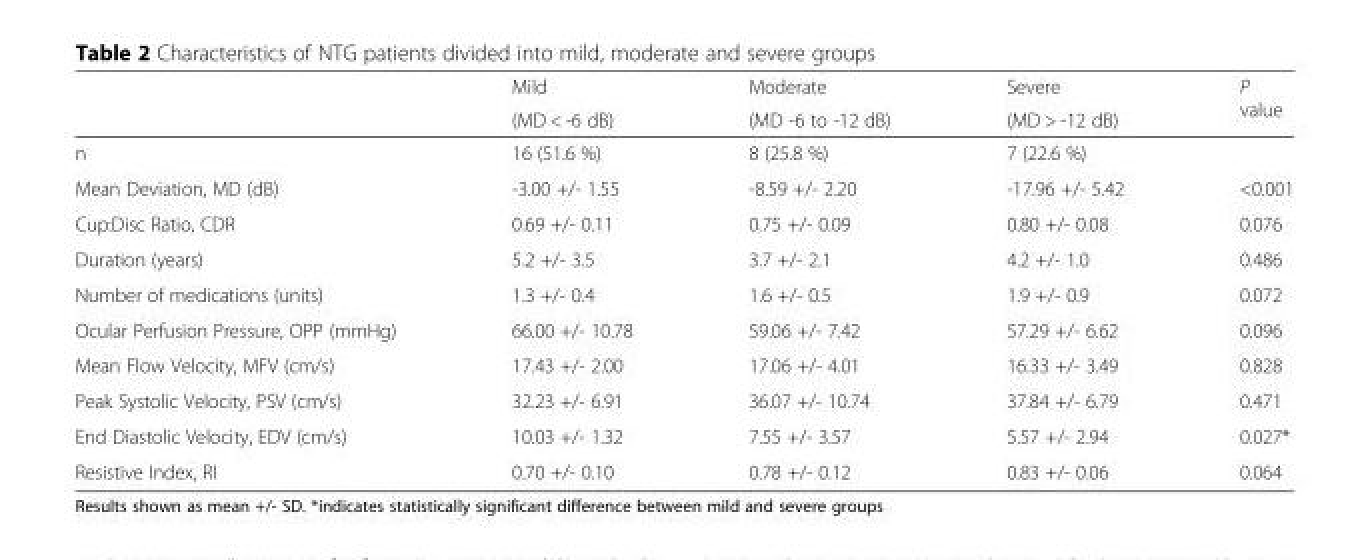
<table><thead><tr><td rowspan="2"></td><td rowspan="2">Mild (MD &lt; -6 dB)</td><td rowspan="2">Moderate (MD -6 to -12 dB)</td><td rowspan="2">Severe (MD &gt; -12 dB)</td><td rowspan="2">P value</td></tr><tr></tr></thead><tbody><tr><td>n</td><td>16 (51.6 %)</td><td>8 (25.8 %)</td><td>7 (22.6 %)</td><td></td></tr><tr><td>Mean Deviation, MD (dB)</td><td>-3.00 +/- 1.55</td><td>-8.59 +/- 2.20</td><td>-17.96 +/- 5.42</td><td>&lt;0.001</td></tr><tr><td>Cup:Disc Ratio, CDR</td><td>0.69 +/- 0.11</td><td>0.75 +/- 0.09</td><td>0.80 +/- 0.08</td><td>0.076</td></tr><tr><td>Duration (years)</td><td>5.2 +/- 3.5</td><td>3.7 +/- 2.1</td><td>4.2 +/- 1.0</td><td>0.486</td></tr><tr><td>Number of medications (units)</td><td>1.3 +/- 0.4</td><td>1.6 +/- 0.5</td><td>1.9 +/- 0.9</td><td>0.072</td></tr><tr><td>Ocular Perfusion Pressure, OPP (mmHg)</td><td>66.00 +/- 10.78</td><td>59.06 +/- 7.42</td><td>57.29 +/- 6.62</td><td>0.096</td></tr><tr><td>Mean Flow Velocity, MFV (cm/s)</td><td>17.43 +/- 2.00</td><td>17.06 +/- 4.01</td><td>16.33 +/- 3.49</td><td>0.828</td></tr><tr><td>Peak Systolic Velocity, PSV (cm/s)</td><td>32.23 +/- 6.91</td><td>36.07 +/- 10.74</td><td>37.84 +/- 6.79</td><td>0.471</td></tr><tr><td>End Diastolic Velocity, EDV (cm/s)</td><td>10.03 +/- 1.32</td><td>7.55 +/- 3.57</td><td>5.57 +/- 2.94</td><td>0.027*</td></tr><tr><td>Resistive Index, RI</td><td>0.70 +/- 0.10</td><td>0.78 +/- 0.12</td><td>0.83 +/- 0.06</td><td>0.064</td></tr></tbody></table>